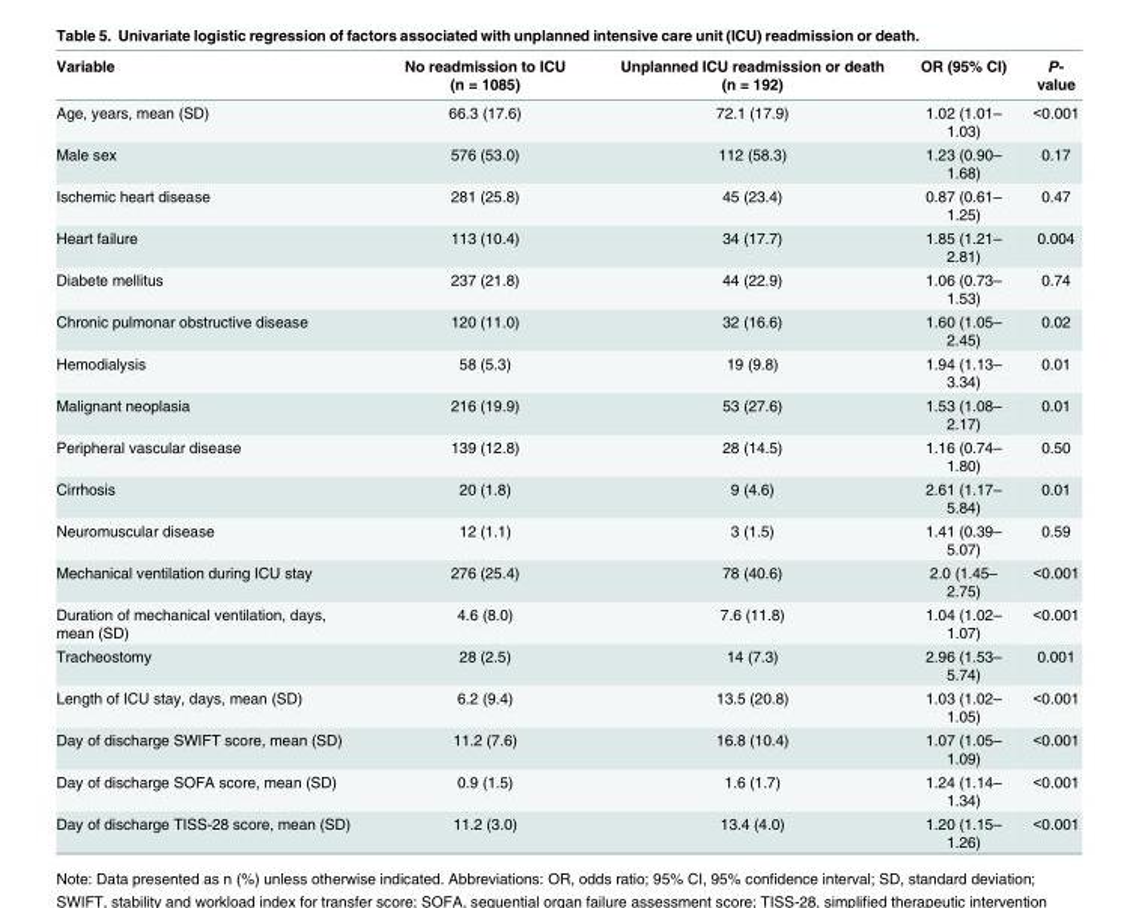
<table><thead><tr><td>Variable</td><td>No readmission to ICU (n = 1085)</td><td>Unplanned ICU readmission or death (n = 192)</td><td>OR (95% CI)</td><td>P- value</td></tr></thead><tbody><tr><td>Age, years, mean (SD)</td><td>66.3 (17.6)</td><td>72.1 (17.9)</td><td>1.02 (1.01– 1.03)</td><td>&lt;0.001</td></tr><tr><td>Male sex</td><td>576 (53.0)</td><td>112 (58.3)</td><td>1.23 (0.90– 1.68)</td><td>0.17</td></tr><tr><td>Ischemic heart disease</td><td>281 (25.8)</td><td>45 (23.4)</td><td>0.87 (0.61– 1.25)</td><td>0.47</td></tr><tr><td>Heart failure</td><td>113 (10.4)</td><td>34 (17.7)</td><td>1.85 (1.21– 2.81)</td><td>0.004</td></tr><tr><td>Diabete mellitus</td><td>237 (21.8)</td><td>44 (22.9)</td><td>1.06 (0.73– 1.53)</td><td>0.74</td></tr><tr><td>Chronic pulmonar obstructive disease</td><td>120 (11.0)</td><td>32 (16.6)</td><td>1.60 (1.05– 2.45)</td><td>0.02</td></tr><tr><td>Hemodialysis</td><td>58 (5.3)</td><td>19 (9.8)</td><td>1.94 (1.13– 3.34)</td><td>0.01</td></tr><tr><td>Malignant neoplasia</td><td>216 (19.9)</td><td>53 (27.6)</td><td>1.53 (1.08– 2.17)</td><td>0.01</td></tr><tr><td>Peripheral vascular disease</td><td>139 (12.8)</td><td>28 (14.5)</td><td>1.16 (0.74– 1.80)</td><td>0.50</td></tr><tr><td>Cirrhosis</td><td>20 (1.8)</td><td>9 (4.6)</td><td>2.61 (1.17– 5.84)</td><td>0.01</td></tr><tr><td>Neuromuscular disease</td><td>12 (1.1)</td><td>3 (1.5)</td><td>1.41 (0.39– 5.07)</td><td>0.59</td></tr><tr><td>Mechanical ventilation during ICU stay</td><td>276 (25.4)</td><td>78 (40.6)</td><td>2.0 (1.45– 2.75)</td><td>&lt;0.001</td></tr><tr><td>Duration of mechanical ventilation, days, mean (SD)</td><td>4.6 (8.0)</td><td>7.6 (11.8)</td><td>1.04 (1.02– 1.07)</td><td>&lt;0.001</td></tr><tr><td>Tracheostomy</td><td>28 (2.5)</td><td>14 (7.3)</td><td>2.96 (1.53– 5.74)</td><td>0.001</td></tr><tr><td>Length of ICU stay, days, mean (SD)</td><td>6.2 (9.4)</td><td>13.5 (20.8)</td><td>1.03 (1.02– 1.05)</td><td>&lt;0.001</td></tr><tr><td>Day of discharge SWIFT score, mean (SD)</td><td>11.2 (7.6)</td><td>16.8 (10.4)</td><td>1.07 (1.05– 1.09)</td><td>&lt;0.001</td></tr><tr><td>Day of discharge SOFA score, mean (SD)</td><td>0.9 (1.5)</td><td>1.6 (1.7)</td><td>1.24 (1.14– 1.34)</td><td>&lt;0.001</td></tr><tr><td>Day of discharge TISS-28 score, mean (SD)</td><td>11.2 (3.0)</td><td>13.4 (4.0)</td><td>1.20 (1.15– 1.26)</td><td>&lt;0.001</td></tr></tbody></table>